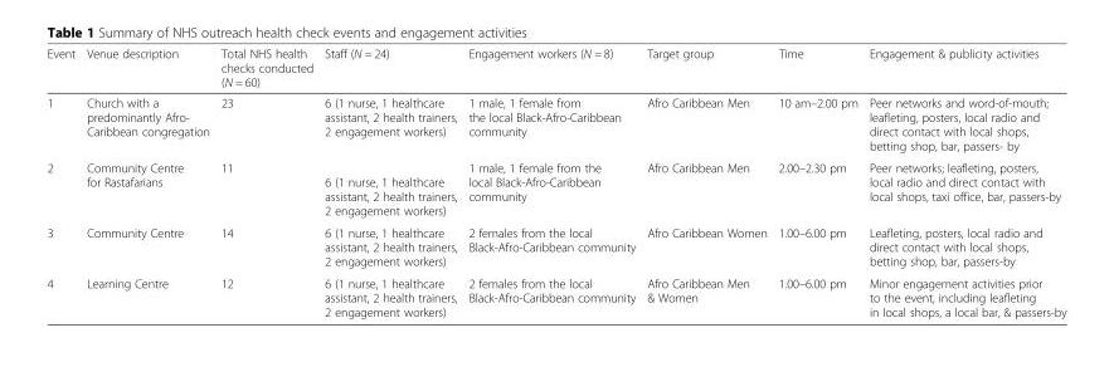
<table><thead><tr><td>Event</td><td>Venue description</td><td>Total NHS health checks conducted (N = 60)</td><td>Staff (N = 24)</td><td>Engagement workers (N = 8)</td><td>Target group</td><td>Time</td><td>Engagement &amp; publicity activities</td></tr></thead><tbody><tr><td>1</td><td>Church with a predominantly Afro- Caribbean congregation</td><td>23</td><td>6 (1 nurse, 1 healthcare assistant, 2 health trainers, 2 engagement workers)</td><td>1 male, 1 female from the local Black-Afro-Caribbean community</td><td>Afro Caribbean Men</td><td>10 am–2.00 pm</td><td>Peer networks and word-of-mouth; leafleting, posters, local radio and direct contact with local shops, betting shop, bar, passers- by</td></tr><tr><td>2</td><td>Community Centre for Rastafarians</td><td>11</td><td>6 (1 nurse, 1 healthcare assistant, 2 health trainers, 2 engagement workers)</td><td>1 male, 1 female from the local Black-Afro-Caribbean community</td><td>Afro Caribbean Men</td><td>2.00–2.30 pm</td><td>Peer networks; leafleting, posters, local radio and direct contact with local shops, taxi office, bar, passers-by</td></tr><tr><td>3</td><td>Community Centre</td><td>14</td><td>6 (1 nurse, 1 healthcare assistant, 2 health trainers, 2 engagement workers)</td><td>2 females from the local Black-Afro-Caribbean community</td><td>Afro Caribbean Women</td><td>1.00–6.00 pm</td><td>Leafleting, posters, local radio and direct contact with local shops, betting shop, bar, passers-by</td></tr><tr><td>4</td><td>Learning Centre</td><td>12</td><td>6 (1 nurse, 1 healthcare assistant, 2 health trainers, 2 engagement workers)</td><td>2 females from the local Black-Afro-Caribbean community</td><td>Afro Caribbean Men &amp; Women</td><td>1.00–6.00 pm</td><td>Minor engagement activities prior to the event, including leafleting in local shops, a local bar, &amp; passers-by</td></tr></tbody></table>